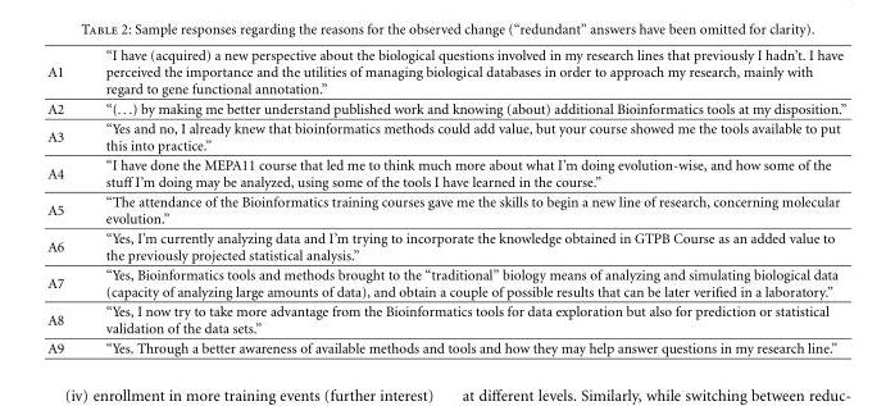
<table><tbody><tr><td>A1</td><td>“I have (acquired) a new perspective about the biological questions involved in my research lines that previously I hadn’t. I have perceived the importance and the utilities of managing biological databases in order to approach my research, mainly with regard to gene functional annotation.”</td></tr><tr><td>A2</td><td>“(...) by making me better understand published work and knowing (about) additional Bioinformatics tools at my disposition.”</td></tr><tr><td>A3</td><td>“Yes and no, I already knew that bioinformatics methods could add value, but your course showed me the tools available to put this into practice.”</td></tr><tr><td>A4</td><td>“I have done the MEPA11 course that led me to think much more about what I’m doing evolution-wise, and how some of the stuff I’m doing may be analyzed, using some of the tools I have learned in the course.”</td></tr><tr><td>A5</td><td>“The attendance of the Bioinformatics training courses gave me the skills to begin a new line of research, concerning molecular evolution.”</td></tr><tr><td>A6</td><td>“Yes, I’m currently analyzing data and I’m trying to incorporate the knowledge obtained in GTPB Course as an added value to the previously projected statistical analysis.”</td></tr><tr><td>A7</td><td>“Yes, Bioinformatics tools and methods brought to the “traditional” biology means of analyzing and simulating biological data (capacity of analyzing large amounts of data), and obtain a couple of possible results that can be later verified in a laboratory.”</td></tr><tr><td>A8</td><td>“Yes, I now try to take more advantage from the Bioinformatics tools for data exploration but also for prediction or statistical validation of the data sets.”</td></tr><tr><td>A9</td><td>“Yes. Through a better awareness of available methods and tools and how they may help answer questions in my research line.”</td></tr></tbody></table>